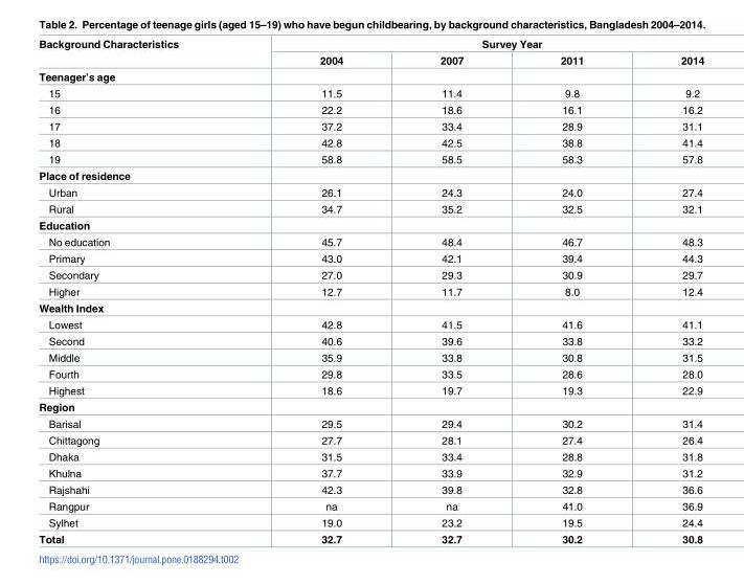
<table><thead><tr><td rowspan="2">Background Characteristics</td><td colspan="4">Survey Year</td></tr><tr><td>2004</td><td>2007</td><td>2011</td><td>2014</td></tr></thead><tbody><tr><td colspan="5">Teenager’s age</td></tr><tr><td>15</td><td>11.5</td><td>11.4</td><td>9.8</td><td>9.2</td></tr><tr><td>16</td><td>22.2</td><td>18.6</td><td>16.1</td><td>16.2</td></tr><tr><td>17</td><td>37.2</td><td>33.4</td><td>28.9</td><td>31.1</td></tr><tr><td>18</td><td>42.8</td><td>42.5</td><td>38.8</td><td>41.4</td></tr><tr><td>19</td><td>58.8</td><td>58.5</td><td>58.3</td><td>57.8</td></tr><tr><td colspan="5">Place of residence</td></tr><tr><td>Urban</td><td>26.1</td><td>24.3</td><td>24.0</td><td>27.4</td></tr><tr><td>Rural</td><td>34.7</td><td>35.2</td><td>32.5</td><td>32.1</td></tr><tr><td colspan="5">Education</td></tr><tr><td>No education</td><td>45.7</td><td>48.4</td><td>46.7</td><td>48.3</td></tr><tr><td>Primary</td><td>43.0</td><td>42.1</td><td>39.4</td><td>44.3</td></tr><tr><td>Secondary</td><td>27.0</td><td>29.3</td><td>30.9</td><td>29.7</td></tr><tr><td>Higher</td><td>12.7</td><td>11.7</td><td>8.0</td><td>12.4</td></tr><tr><td colspan="5">Wealth Index</td></tr><tr><td>Lowest</td><td>42.8</td><td>41.5</td><td>41.6</td><td>41.1</td></tr><tr><td>Second</td><td>40.6</td><td>39.6</td><td>33.8</td><td>33.2</td></tr><tr><td>Middle</td><td>35.9</td><td>33.8</td><td>30.8</td><td>31.5</td></tr><tr><td>Fourth</td><td>29.8</td><td>33.5</td><td>28.6</td><td>28.0</td></tr><tr><td>Highest</td><td>18.6</td><td>19.7</td><td>19.3</td><td>22.9</td></tr><tr><td colspan="5">Region</td></tr><tr><td>Barisal</td><td>29.5</td><td>29.4</td><td>30.2</td><td>31.4</td></tr><tr><td>Chittagong</td><td>27.7</td><td>28.1</td><td>27.4</td><td>26.4</td></tr><tr><td>Dhaka</td><td>31.5</td><td>33.4</td><td>28.8</td><td>31.8</td></tr><tr><td>Khulna</td><td>37.7</td><td>33.9</td><td>32.9</td><td>31.2</td></tr><tr><td>Rajshahi</td><td>42.3</td><td>39.8</td><td>32.8</td><td>36.6</td></tr><tr><td>Rangpur</td><td>na</td><td>na</td><td>41.0</td><td>36.9</td></tr><tr><td>Sylhet</td><td>19.0</td><td>23.2</td><td>19.5</td><td>24.4</td></tr><tr><td>Total</td><td>32.7</td><td>32.7</td><td>30.2</td><td>30.8</td></tr></tbody></table>